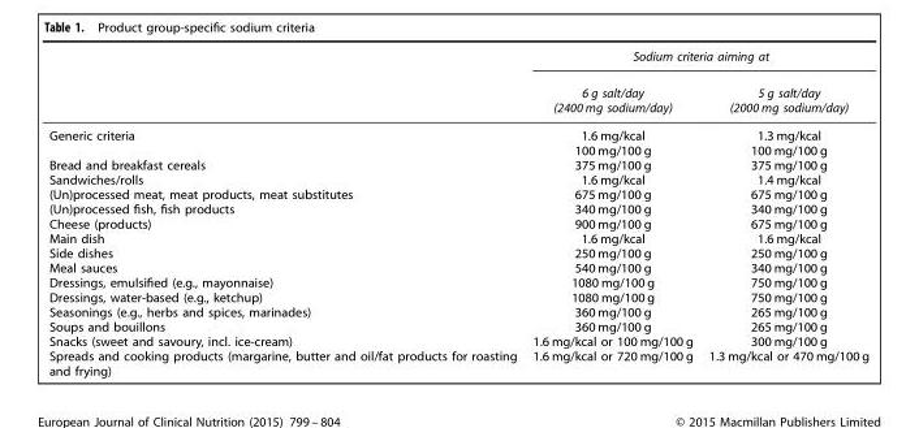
<table><thead><tr><td rowspan="2"></td><td colspan="2">Sodium criteria aiming at</td></tr><tr><td>6 g salt/day (2400 mg sodium/day)</td><td>5 g salt/day (2000 mg sodium/day)</td></tr></thead><tbody><tr><td>Generic criteria</td><td>1.6 mg/kcal 100 mg/100 g</td><td>1.3 mg/kcal 100 mg/100 g</td></tr><tr><td>Bread and breakfast cereals</td><td>375 mg/100 g</td><td>375 mg/100 g</td></tr><tr><td>Sandwiches/rolls</td><td>1.6 mg/kcal</td><td>1.4 mg/kcal</td></tr><tr><td>(Un)processed meat, meat products, meat substitutes</td><td>675 mg/100 g</td><td>675 mg/100 g</td></tr><tr><td>(Un)processed fish, fish products</td><td>340 mg/100 g</td><td>340 mg/100 g</td></tr><tr><td>Cheese (products)</td><td>900 mg/100 g</td><td>675 mg/100 g</td></tr><tr><td>Main dish</td><td>1.6 mg/kcal</td><td>1.6 mg/kcal</td></tr><tr><td>Side dishes</td><td>250 mg/100 g</td><td>250 mg/100 g</td></tr><tr><td>Meal sauces</td><td>540 mg/100 g</td><td>340 mg/100 g</td></tr><tr><td>Dressings, emulsified (e.g., mayonnaise)</td><td>1080 mg/100 g</td><td>750 mg/100 g</td></tr><tr><td>Dressings, water-based (e.g., ketchup)</td><td>1080 mg/100 g</td><td>750 mg/100 g</td></tr><tr><td>Seasonings (e.g., herbs and spices, marinades)</td><td>360 mg/100 g</td><td>265 mg/100 g</td></tr><tr><td>Soups and bouillons</td><td>360 mg/100 g</td><td>265 mg/100 g</td></tr><tr><td>Snacks (sweet and savoury, incl. ice-cream)</td><td>1.6 mg/kcal or 100 mg/100 g</td><td>300 mg/100 g</td></tr><tr><td>Spreads and cooking products (margarine, butter and oil/fat products for roasting and frying)</td><td>1.6 mg/kcal or 720 mg/100 g</td><td>1.3 mg/kcal or 470 mg/100 g</td></tr></tbody></table>